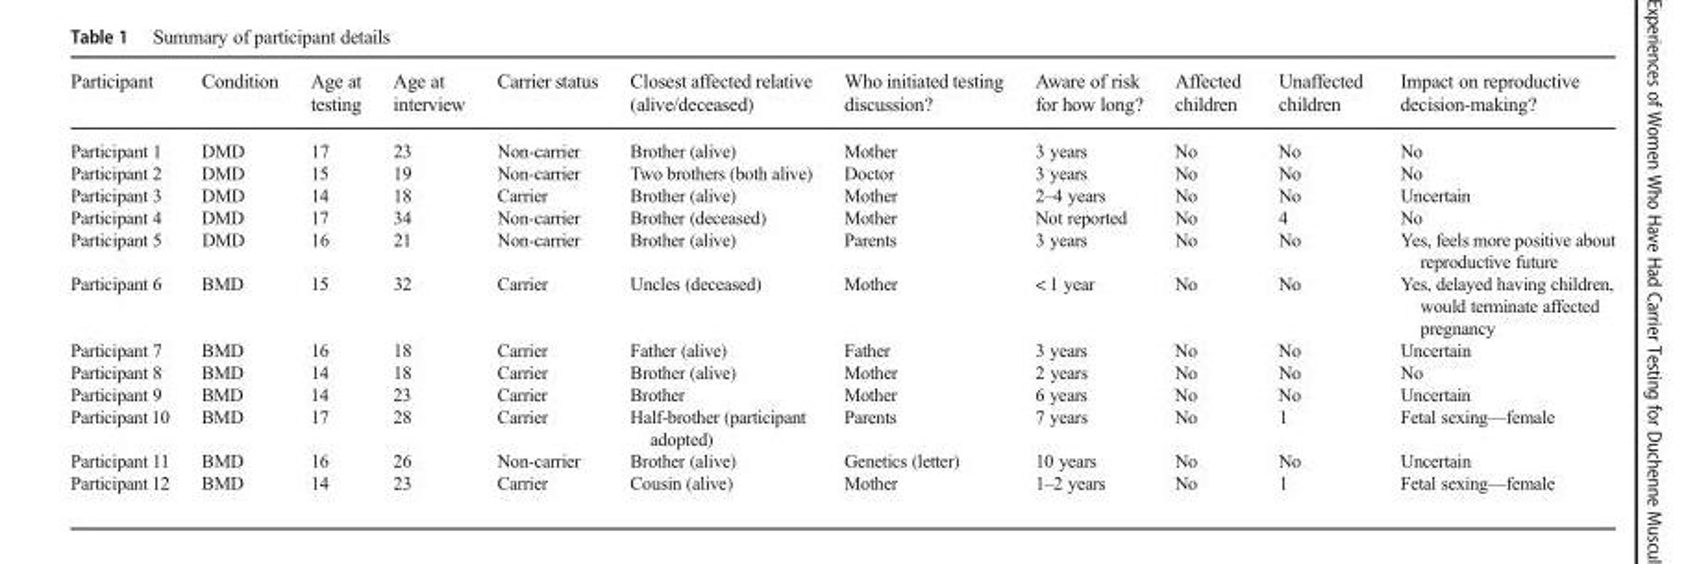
<table><thead><tr><td>Participant</td><td>Condition</td><td>Age at testing</td><td>Age at interview</td><td>Carrier status</td><td>Closest affected relative (alive/deceased)</td><td>Who initiated testing discussion?</td><td>Aware of risk for how long?</td><td>Affected children</td><td>Unaffected children</td><td>Impact on reproductive decision-making?</td></tr></thead><tbody><tr><td>Participant 1</td><td>DMD</td><td>17</td><td>23</td><td>Non-carrier</td><td>Brother (alive)</td><td>Mother</td><td>3 years</td><td>No</td><td>No</td><td>No</td></tr><tr><td>Participant 2</td><td>DMD</td><td>15</td><td>19</td><td>Non-carrier</td><td>Two brothers (both alive)</td><td>Doctor</td><td>3 years</td><td>No</td><td>No</td><td>No</td></tr><tr><td>Participant 3</td><td>DMD</td><td>14</td><td>18</td><td>Carrier</td><td>Brother (alive)</td><td>Mother</td><td>2–4 years</td><td>No</td><td>No</td><td>Uncertain</td></tr><tr><td>Participant 4</td><td>DMD</td><td>17</td><td>34</td><td>Non-carrier</td><td>Brother (deceased)</td><td>Mother</td><td>Not reported</td><td>No</td><td>4</td><td>No</td></tr><tr><td>Participant 5</td><td>DMD</td><td>16</td><td>21</td><td>Non-carrier</td><td>Brother (alive)</td><td>Parents</td><td>3 years</td><td>No</td><td>No</td><td>Yes, feels more positive about reproductive future</td></tr><tr><td>Participant 6</td><td>BMD</td><td>15</td><td>32</td><td>Carrier</td><td>Uncles (deceased)</td><td>Mother</td><td>&lt; 1 year</td><td>No</td><td>No</td><td>Yes, delayed having children, would terminate affected pregnancy</td></tr><tr><td>Participant 7</td><td>BMD</td><td>16</td><td>18</td><td>Carrier</td><td>Father (alive)</td><td>Father</td><td>3 years</td><td>No</td><td>No</td><td>Uncertain</td></tr><tr><td>Participant 8</td><td>BMD</td><td>14</td><td>18</td><td>Carrier</td><td>Brother (alive)</td><td>Mother</td><td>2 years</td><td>No</td><td>No</td><td>No</td></tr><tr><td>Participant 9</td><td>BMD</td><td>14</td><td>23</td><td>Carrier</td><td>Brother</td><td>Mother</td><td>6 years</td><td>No</td><td>No</td><td>Uncertain</td></tr><tr><td>Participant 10</td><td>BMD</td><td>17</td><td>28</td><td>Carrier</td><td>Half-brother (participant adopted)</td><td>Parents</td><td>7 years</td><td>No</td><td>1</td><td>Fetal sexing—female</td></tr><tr><td>Participant 11</td><td>BMD</td><td>16</td><td>26</td><td>Non-carrier</td><td>Brother (alive)</td><td>Genetics (letter)</td><td>10 years</td><td>No</td><td>No</td><td>Uncertain</td></tr><tr><td>Participant 12</td><td>BMD</td><td>14</td><td>23</td><td>Carrier</td><td>Cousin (alive)</td><td>Mother</td><td>1–2 years</td><td>No</td><td>1</td><td>Fetal sexing—female</td></tr></tbody></table>